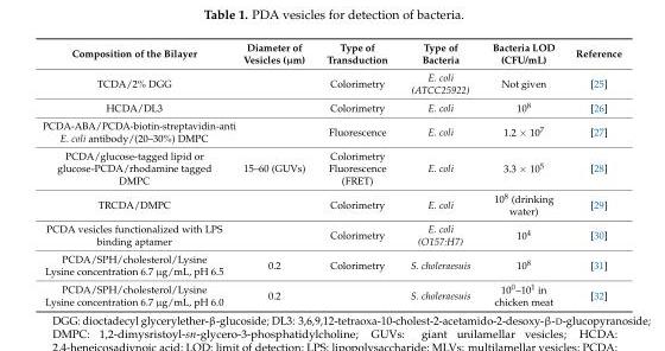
<table><thead><tr><td>Composition of the Bilayer</td><td>Diameter of Vesicles (µm)</td><td>Type of Transduction</td><td>Type of Bacteria</td><td>Bacteria LOD (CFU/mL)</td><td>Reference</td></tr></thead><tbody><tr><td>TCDA/2% DGG</td><td></td><td>Colorimetry</td><td>E. coli (ATCC25922)</td><td>Not given</td><td>[25]</td></tr><tr><td>HCDA/DL3</td><td></td><td>Colorimetry</td><td>E. coli</td><td>10<sup>8</sup></td><td>[26]</td></tr><tr><td>PCDA-ABA/PCDA-biotin-streptavidin-anti E. coli antibody/(20–30%) DMPC</td><td></td><td>Fluorescence</td><td>E. coli</td><td>1.2 × 10<sup>7</sup></td><td>[27]</td></tr><tr><td>PCDA/glucose-tagged lipid or glucose-PCDA/rhodamine tagged DMPC</td><td>15–60 (GUVs)</td><td>Colorimetry Fluorescence (FRET)</td><td>E. coli</td><td>3.3 × 10<sup>5</sup></td><td>[28]</td></tr><tr><td>TRCDA/DMPC</td><td></td><td>Colorimetry</td><td>E. coli</td><td>10<sup>8</sup> (drinking water)</td><td>[29]</td></tr><tr><td>PCDA vesicles functionalized with LPS binding aptamer</td><td></td><td>Colorimetry</td><td>E. coli (O157:H7)</td><td>10<sup>4</sup></td><td>[30]</td></tr><tr><td>PCDA/SPH/cholesterol/Lysine Lysine concentration 6.7 µg/mL, pH 6.5</td><td>0.2</td><td>Colorimetry</td><td>S. choleraesuis</td><td>10<sup>8</sup></td><td>[31]</td></tr><tr><td>PCDA/SPH/cholesterol/Lysine Lysine concentration 6.7 µg/mL, pH 6.0</td><td>0.2</td><td></td><td>S. choleraesuis</td><td>10<sup>0</sup>–10<sup>1</sup> in chicken meat</td><td>[32]</td></tr></tbody></table>